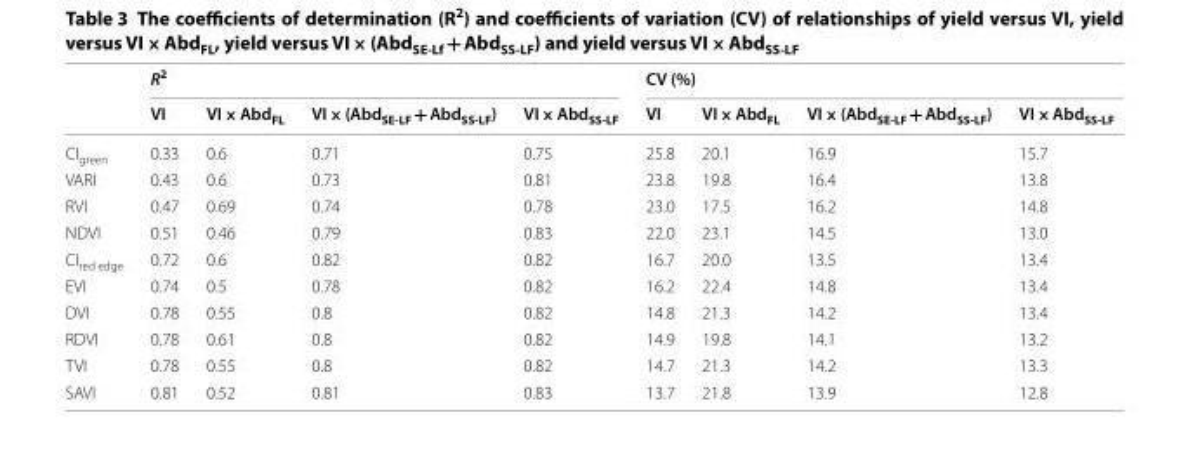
<table><thead><tr><td rowspan="2"></td><td colspan="4">R<sup>2</sup></td><td colspan="4">CV (%)</td></tr><tr><td>VI</td><td>VI × Abd<sub>FL</sub></td><td>VI × (Abd<sub>SE-LF</sub> + Abd<sub>SS-LF</sub>)</td><td>VI × Abd<sub>SS-LF</sub></td><td>VI</td><td>VI × Abd<sub>FL</sub></td><td>VI × (Abd<sub>SE-LF</sub> + Abd<sub>SS-LF</sub>)</td><td>VI × Abd<sub>SS-LF</sub></td></tr></thead><tbody><tr><td>CI<sub>green</sub></td><td>0.33</td><td>0.6</td><td>0.71</td><td>0.75</td><td>25.8</td><td>20.1</td><td>16.9</td><td>15.7</td></tr><tr><td>VARI</td><td>0.43</td><td>0.6</td><td>0.73</td><td>0.81</td><td>23.8</td><td>19.8</td><td>16.4</td><td>13.8</td></tr><tr><td>RVI</td><td>0.47</td><td>0.69</td><td>0.74</td><td>0.78</td><td>23.0</td><td>17.5</td><td>16.2</td><td>14.8</td></tr><tr><td>NDVI</td><td>0.51</td><td>0.46</td><td>0.79</td><td>0.83</td><td>22.0</td><td>23.1</td><td>14.5</td><td>13.0</td></tr><tr><td>CI<sub>red edge</sub></td><td>0.72</td><td>0.6</td><td>0.82</td><td>0.82</td><td>16.7</td><td>20.0</td><td>13.5</td><td>13.4</td></tr><tr><td>EVI</td><td>0.74</td><td>0.5</td><td>0.78</td><td>0.82</td><td>16.2</td><td>22.4</td><td>14.8</td><td>13.4</td></tr><tr><td>DVI</td><td>0.78</td><td>0.55</td><td>0.8</td><td>0.82</td><td>14.8</td><td>21.3</td><td>14.2</td><td>13.4</td></tr><tr><td>RDVI</td><td>0.78</td><td>0.61</td><td>0.8</td><td>0.82</td><td>14.9</td><td>19.8</td><td>14.1</td><td>13.2</td></tr><tr><td>TVI</td><td>0.78</td><td>0.55</td><td>0.8</td><td>0.82</td><td>14.7</td><td>21.3</td><td>14.2</td><td>13.3</td></tr><tr><td>SAVI</td><td>0.81</td><td>0.52</td><td>0.81</td><td>0.83</td><td>13.7</td><td>21.8</td><td>13.9</td><td>12.8</td></tr></tbody></table>